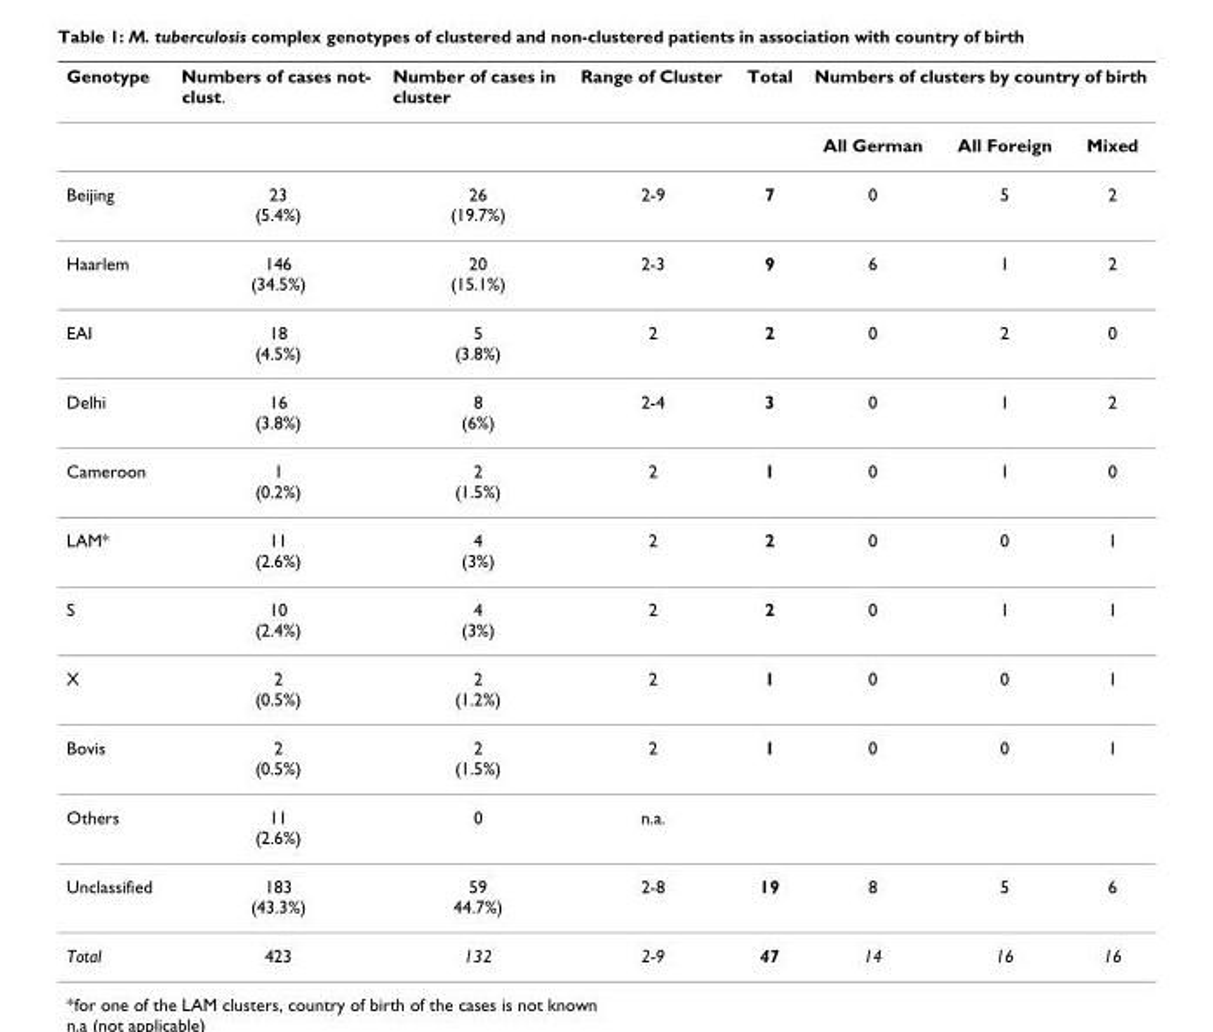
<table><thead><tr><td rowspan="2">Genotype</td><td rowspan="2">Numbers of cases not- clust.</td><td rowspan="2">Number of cases in cluster</td><td rowspan="2">Range of Cluster</td><td rowspan="2">Total</td><td colspan="3">Numbers of clusters by country of birth</td></tr><tr><td>All German</td><td>All Foreign</td><td>Mixed</td></tr></thead><tbody><tr><td>Beijing</td><td>23 (5.4%)</td><td>26 (19.7%)</td><td>2-9</td><td>7</td><td>0</td><td>5</td><td>2</td></tr><tr><td>Haarlem</td><td>146 (34.5%)</td><td>20 (15.1%)</td><td>2-3</td><td>9</td><td>6</td><td>1</td><td>2</td></tr><tr><td>EAI</td><td>18 (4.5%)</td><td>5 (3.8%)</td><td>2</td><td>2</td><td>0</td><td>2</td><td>0</td></tr><tr><td>Delhi</td><td>16 (3.8%)</td><td>8 (6%)</td><td>2-4</td><td>3</td><td>0</td><td>1</td><td>2</td></tr><tr><td>Cameroon</td><td>1 (0.2%)</td><td>2 (1.5%)</td><td>2</td><td>1</td><td>0</td><td>1</td><td>0</td></tr><tr><td>LAM*</td><td>11 (2.6%)</td><td>4 (3%)</td><td>2</td><td>2</td><td>0</td><td>0</td><td>1</td></tr><tr><td>S</td><td>10 (2.4%)</td><td>4 (3%)</td><td>2</td><td>2</td><td>0</td><td>1</td><td>1</td></tr><tr><td>X</td><td>2 (0.5%)</td><td>2 (1.2%)</td><td>2</td><td>1</td><td>0</td><td>0</td><td>1</td></tr><tr><td>Bovis</td><td>2 (0.5%)</td><td>2 (1.5%)</td><td>2</td><td>1</td><td>0</td><td>0</td><td>1</td></tr><tr><td>Others</td><td>11 (2.6%)</td><td>0</td><td>n.a.</td><td></td><td></td><td></td><td></td></tr><tr><td>Unclassified</td><td>183 (43.3%)</td><td>59 44.7%)</td><td>2-8</td><td>19</td><td>8</td><td>5</td><td>6</td></tr><tr><td>Total</td><td>423</td><td>132</td><td>2-9</td><td>47</td><td>14</td><td>16</td><td>16</td></tr></tbody></table>